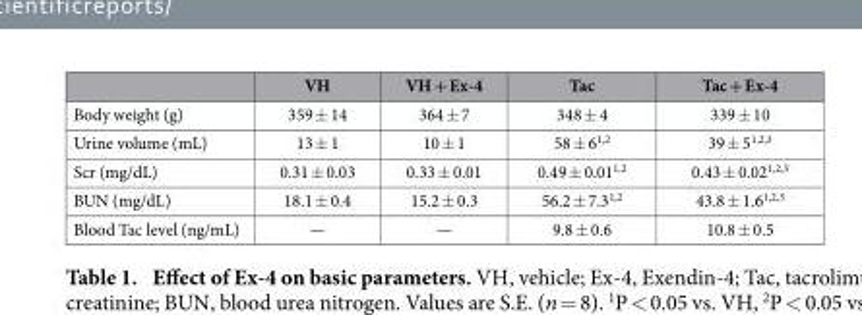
<table><thead><tr><td></td><td>VH</td><td>VH + Ex-4</td><td>Tac</td><td>Tac + Ex-4</td></tr></thead><tbody><tr><td>Body weight (g)</td><td>359 ± 14</td><td>364 ± 7</td><td>348 ± 4</td><td>339 ± 10</td></tr><tr><td>Urine volume (mL)</td><td>13 ± 1</td><td>10 ± 1</td><td>58 ± 6<sup>1,2</sup></td><td>39 ± 5<sup>1,2,3</sup></td></tr><tr><td>Scr (mg/dL)</td><td>0.31 ± 0.03</td><td>0.33 ± 0.01</td><td>0.49 ± 0.01<sup>1,2</sup></td><td>0.43 ± 0.02<sup>1,2,3</sup></td></tr><tr><td>BUN (mg/dL)</td><td>18.1 ± 0.4</td><td>15.2 ± 0.3</td><td>56.2 ± 7.3<sup>1,2</sup></td><td>43.8 ± 1.6<sup>1,2,3</sup></td></tr><tr><td>Blood Tac level (ng/mL)</td><td>—</td><td>—</td><td>9.8 ± 0.6</td><td>10.8 ± 0.5</td></tr></tbody></table>